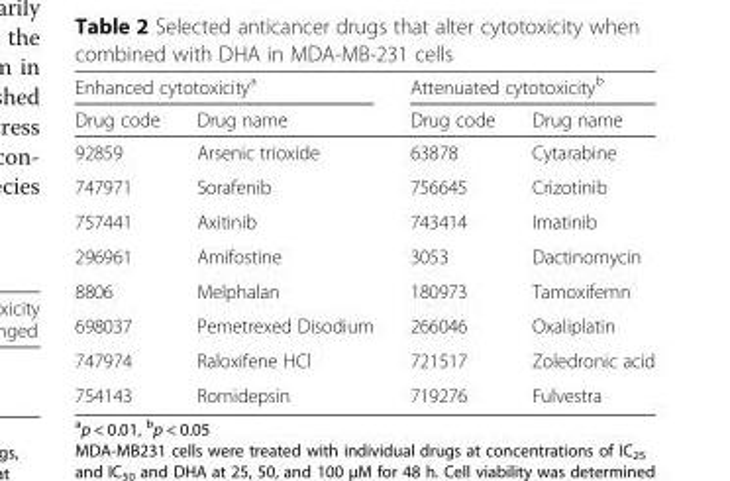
<table><thead><tr><td colspan="2">Enhanced cytotoxicity<sup>a</sup></td><td colspan="2">Attenuated cytotoxicity<sup>b</sup></td></tr><tr><td>Drug code</td><td>Drug name</td><td>Drug code</td><td>Drug name</td></tr></thead><tbody><tr><td>92859</td><td>Arsenic trioxide</td><td>63878</td><td>Cytarabine</td></tr><tr><td>747971</td><td>Sorafenib</td><td>756645</td><td>Crizotinib</td></tr><tr><td>757441</td><td>Axitinib</td><td>743414</td><td>Imatinib</td></tr><tr><td>296961</td><td>Amifostine</td><td>3053</td><td>Dactinomycin</td></tr><tr><td>8806</td><td>Melphalan</td><td>180973</td><td>Tamoxifemn</td></tr><tr><td>698037</td><td>Pemetrexed Disodium</td><td>266046</td><td>Oxaliplatin</td></tr><tr><td>747974</td><td>Raloxifene HCl</td><td>721517</td><td>Zoledronic acid</td></tr><tr><td>754143</td><td>Romidepsin</td><td>719276</td><td>Fulvestra</td></tr></tbody></table>